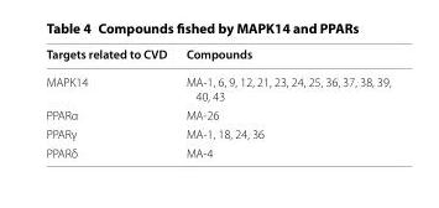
<table><thead><tr><td>Targets related to CVD</td><td>Compounds</td></tr></thead><tbody><tr><td>MAPK14</td><td>MA‑1, 6, 9, 12, 21, 23, 24, 25, 36, 37, 38, 39, 40, 43</td></tr><tr><td>PPARα</td><td>MA‑26</td></tr><tr><td>PPARγ</td><td>MA‑1, 18, 24, 36</td></tr><tr><td>PPARδ</td><td>MA‑4</td></tr></tbody></table>